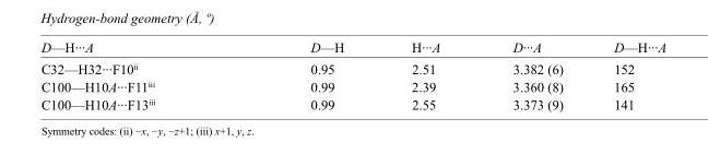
<table><tbody><tr><td>D—H···A</td><td>D—H</td><td>H···A</td><td>D···A</td><td>D—H···A</td></tr><tr><td>C32—H32···F10<sup>ii</sup></td><td>0.95</td><td>2.51</td><td>3.382 (6)</td><td>152</td></tr><tr><td>C100—H10A···F11<sup>iii</sup></td><td>0.99</td><td>2.39</td><td>3.360 (8)</td><td>165</td></tr><tr><td>C100—H10A···F13<sup>iii</sup></td><td>0.99</td><td>2.55</td><td>3.373 (9)</td><td>141</td></tr></tbody></table>